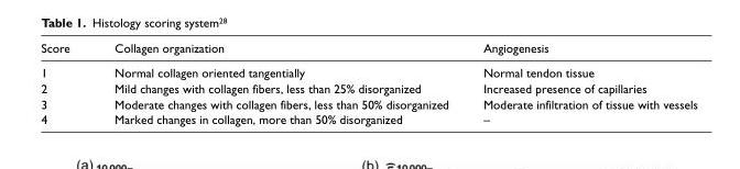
<table><thead><tr><td>Score</td><td>Collagen organization</td><td>Angiogenesis</td></tr></thead><tbody><tr><td>1</td><td>Normal collagen oriented tangentially</td><td>Normal tendon tissue</td></tr><tr><td>2</td><td>Mild changes with collagen fibers, less than 25% disorganized</td><td>Increased presence of capillaries</td></tr><tr><td>3</td><td>Moderate changes with collagen fibers, less than 50% disorganized</td><td>Moderate infiltration of tissue with vessels</td></tr><tr><td>4</td><td>Marked changes in collagen, more than 50% disorganized</td><td>–</td></tr></tbody></table>